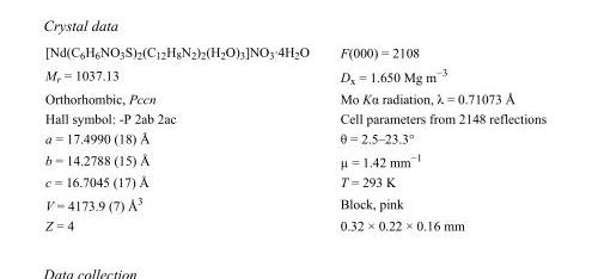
<table><tbody><tr><td>[Nd(C<sub>6</sub>H<sub>6</sub>NO<sub>3</sub>S)<sub>2</sub>(C<sub>12</sub>H<sub>8</sub>N<sub>2</sub>)<sub>2</sub>(H<sub>2</sub>O)<sub>3</sub>]NO<sub>3</sub>·4H<sub>2</sub>O</td><td>F(000) = 2108</td></tr><tr><td>M<sub>r</sub> = 1037.13</td><td>D<sub>x</sub> = 1.650 Mg m<sup>−3</sup></td></tr><tr><td>Orthorhombic, Pccn</td><td>Mo Kα radiation, λ = 0.71073 Å</td></tr><tr><td>Hall symbol: -P 2ab 2ac</td><td>Cell parameters from 2148 reflections</td></tr><tr><td>a = 17.4990 (18) Å</td><td>θ = 2.5–23.3°</td></tr><tr><td>b = 14.2788 (15) Å</td><td>µ = 1.42 mm<sup>−1</sup></td></tr><tr><td>c = 16.7045 (17) Å</td><td>T = 293 K</td></tr><tr><td>V = 4173.9 (7) Å<sup>3</sup></td><td>Block, pink</td></tr><tr><td>Z = 4</td><td>0.32 × 0.22 × 0.16 mm</td></tr></tbody></table>